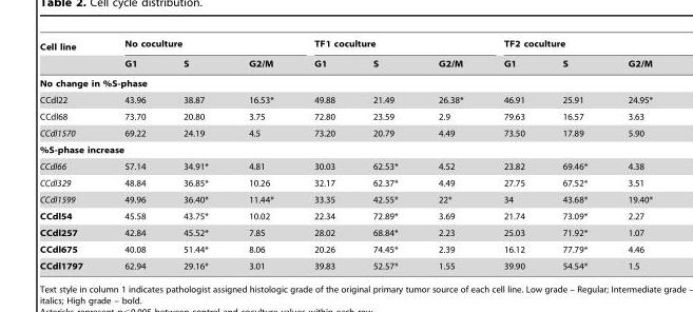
<table><thead><tr><td rowspan="2">Cell line</td><td colspan="3">No coculture</td><td colspan="3">TF1 coculture</td><td colspan="3">TF2 coculture</td></tr><tr><td>G1</td><td>S</td><td>G2/M</td><td>G1</td><td>S</td><td>G2/M</td><td>G1</td><td>S</td><td>G2/M</td></tr></thead><tbody><tr><td colspan="10">No change in %S-phase</td></tr><tr><td>CCdl22</td><td>43.96</td><td>38.87</td><td>16.53*</td><td>49.88</td><td>21.49</td><td>26.38*</td><td>46.91</td><td>25.91</td><td>24.95*</td></tr><tr><td>CCdl68</td><td>73.70</td><td>20.80</td><td>3.75</td><td>72.80</td><td>23.59</td><td>2.9</td><td>79.63</td><td>16.57</td><td>3.63</td></tr><tr><td>CCdl1570</td><td>69.22</td><td>24.19</td><td>4.5</td><td>73.20</td><td>20.79</td><td>4.49</td><td>73.50</td><td>17.89</td><td>5.90</td></tr><tr><td colspan="10">%S-phase increase</td></tr><tr><td>CCdl66</td><td>57.14</td><td>34.91*</td><td>4.81</td><td>30.03</td><td>62.53*</td><td>4.52</td><td>23.82</td><td>69.46*</td><td>4.38</td></tr><tr><td>CCdl329</td><td>48.84</td><td>36.85*</td><td>10.26</td><td>32.17</td><td>62.37*</td><td>4.49</td><td>27.75</td><td>67.52*</td><td>3.51</td></tr><tr><td>CCdl1599</td><td>49.96</td><td>36.40*</td><td>11.44*</td><td>33.35</td><td>42.55*</td><td>22*</td><td>34</td><td>43.68*</td><td>19.40*</td></tr><tr><td>CCdl54</td><td>45.58</td><td>43.75*</td><td>10.02</td><td>22.34</td><td>72.89*</td><td>3.69</td><td>21.74</td><td>73.09*</td><td>2.27</td></tr><tr><td>CCdl257</td><td>42.84</td><td>45.52*</td><td>7.85</td><td>28.02</td><td>68.84*</td><td>2.23</td><td>25.03</td><td>71.92*</td><td>1.07</td></tr><tr><td>CCdl675</td><td>40.08</td><td>51.44*</td><td>8.06</td><td>20.26</td><td>74.45*</td><td>2.39</td><td>16.12</td><td>77.79*</td><td>4.46</td></tr><tr><td>CCdl1797</td><td>62.94</td><td>29.16*</td><td>3.01</td><td>39.83</td><td>52.57*</td><td>1.55</td><td>39.90</td><td>54.54*</td><td>1.5</td></tr></tbody></table>